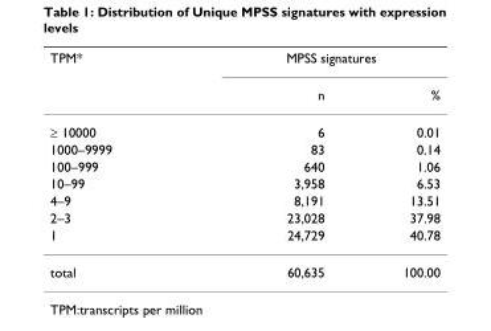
<table><thead><tr><td rowspan="2">TPM*</td><td colspan="2">MPSS signatures</td></tr><tr><td>n</td><td>%</td></tr></thead><tbody><tr><td>≥ 10000</td><td>6</td><td>0.01</td></tr><tr><td>1000–9999</td><td>83</td><td>0.14</td></tr><tr><td>100–999</td><td>640</td><td>1.06</td></tr><tr><td>10–99</td><td>3,958</td><td>6.53</td></tr><tr><td>4–9</td><td>8,191</td><td>13.51</td></tr><tr><td>2–3</td><td>23,028</td><td>37.98</td></tr><tr><td>1</td><td>24,729</td><td>40.78</td></tr><tr><td>total</td><td>60,635</td><td>100.00</td></tr></tbody></table>